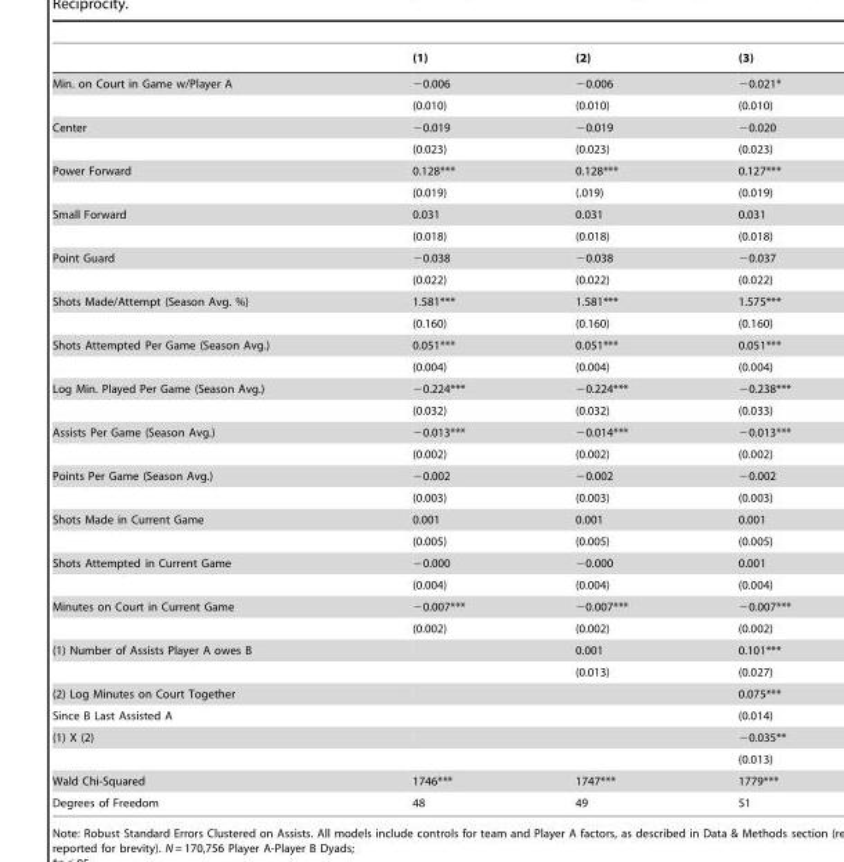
<table><thead><tr><td></td><td>(1)</td><td>(2)</td><td>(3)</td></tr></thead><tbody><tr><td rowspan="2">Min. on Court in Game w/Player A</td><td>−0.006</td><td>−0.006</td><td>−0.021*</td></tr><tr><td>(0.010)</td><td>(0.010)</td><td>(0.010)</td></tr><tr><td rowspan="2">Center</td><td>−0.019</td><td>−0.019</td><td>−0.020</td></tr><tr><td>(0.023)</td><td>(0.023)</td><td>(0.023)</td></tr><tr><td rowspan="2">Power Forward</td><td>0.128***</td><td>0.128***</td><td>0.127***</td></tr><tr><td>(0.019)</td><td>(.019)</td><td>(0.019)</td></tr><tr><td rowspan="2">Small Forward</td><td>0.031</td><td>0.031</td><td>0.031</td></tr><tr><td>(0.018)</td><td>(0.018)</td><td>(0.018)</td></tr><tr><td rowspan="2">Point Guard</td><td>−0.038</td><td>−0.038</td><td>−0.037</td></tr><tr><td>(0.022)</td><td>(0.022)</td><td>(0.022)</td></tr><tr><td rowspan="2">Shots Made/Attempt (Season Avg. %)</td><td>1.581***</td><td>1.581***</td><td>1.575***</td></tr><tr><td>(0.160)</td><td>(0.160)</td><td>(0.160)</td></tr><tr><td rowspan="2">Shots Attempted Per Game (Season Avg.)</td><td>0.051***</td><td>0.051***</td><td>0.051***</td></tr><tr><td>(0.004)</td><td>(0.004)</td><td>(0.004)</td></tr><tr><td rowspan="2">Log Min. Played Per Game (Season Avg.)</td><td>−0.224***</td><td>−0.224***</td><td>−0.238***</td></tr><tr><td>(0.032)</td><td>(0.032)</td><td>(0.033)</td></tr><tr><td rowspan="2">Assists Per Game (Season Avg.)</td><td>−0.013***</td><td>−0.014***</td><td>−0.013***</td></tr><tr><td>(0.002)</td><td>(0.002)</td><td>(0.002)</td></tr><tr><td rowspan="2">Points Per Game (Season Avg.)</td><td>−0.002</td><td>−0.002</td><td>−0.002</td></tr><tr><td>(0.003)</td><td>(0.003)</td><td>(0.003)</td></tr><tr><td rowspan="2">Shots Made in Current Game</td><td>0.001</td><td>0.001</td><td>0.001</td></tr><tr><td>(0.005)</td><td>(0.005)</td><td>(0.005)</td></tr><tr><td rowspan="2">Shots Attempted in Current Game</td><td>−0.000</td><td>−0.000</td><td>0.001</td></tr><tr><td>(0.004)</td><td>(0.004)</td><td>(0.004)</td></tr><tr><td rowspan="2">Minutes on Court in Current Game</td><td>−0.007***</td><td>−0.007***</td><td>−0.007***</td></tr><tr><td>(0.002)</td><td>(0.002)</td><td>(0.002)</td></tr><tr><td rowspan="2">(1) Number of Assists Player A owes B</td><td></td><td>0.001</td><td>0.101***</td></tr><tr><td></td><td>(0.013)</td><td>(0.027)</td></tr><tr><td>(2) Log Minutes on Court Together</td><td></td><td></td><td>0.075***</td></tr><tr><td>Since B Last Assisted A</td><td></td><td></td><td>(0.014)</td></tr><tr><td rowspan="2">(1) X (2)</td><td></td><td></td><td>−0.035**</td></tr><tr><td></td><td></td><td>(0.013)</td></tr><tr><td>Wald Chi-Squared</td><td>1746***</td><td>1747***</td><td>1779***</td></tr><tr><td>Degrees of Freedom</td><td>48</td><td>49</td><td>51</td></tr></tbody></table>